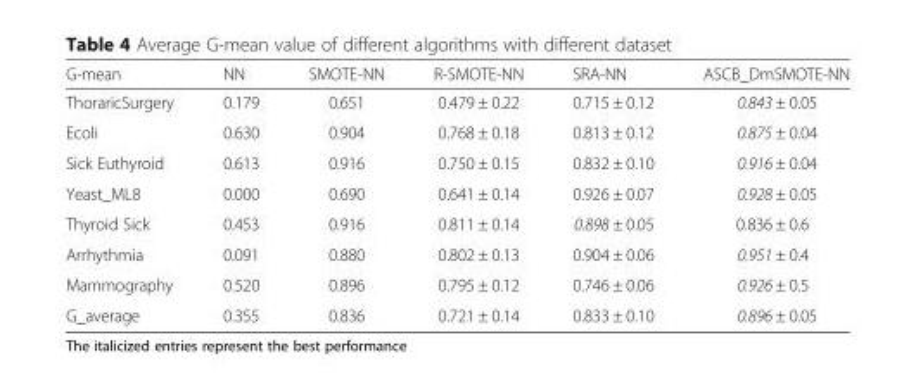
<table><thead><tr><td>G-mean</td><td>NN</td><td>SMOTE-NN</td><td>R-SMOTE-NN</td><td>SRA-NN</td><td>ASCB_DmSMOTE-NN</td></tr></thead><tbody><tr><td>ThoraricSurgery</td><td>0.179</td><td>0.651</td><td>0.479 ± 0.22</td><td>0.715 ± 0.12</td><td>0.843 ± 0.05</td></tr><tr><td>Ecoli</td><td>0.630</td><td>0.904</td><td>0.768 ± 0.18</td><td>0.813 ± 0.12</td><td>0.875 ± 0.04</td></tr><tr><td>Sick Euthyroid</td><td>0.613</td><td>0.916</td><td>0.750 ± 0.15</td><td>0.832 ± 0.10</td><td>0.916 ± 0.04</td></tr><tr><td>Yeast_ML8</td><td>0.000</td><td>0.690</td><td>0.641 ± 0.14</td><td>0.926 ± 0.07</td><td>0.928 ± 0.05</td></tr><tr><td>Thyroid Sick</td><td>0.453</td><td>0.916</td><td>0.811 ± 0.14</td><td>0.898 ± 0.05</td><td>0.836 ± 0.6</td></tr><tr><td>Arrhythmia</td><td>0.091</td><td>0.880</td><td>0.802 ± 0.13</td><td>0.904 ± 0.06</td><td>0.951 ± 0.4</td></tr><tr><td>Mammography</td><td>0.520</td><td>0.896</td><td>0.795 ± 0.12</td><td>0.746 ± 0.06</td><td>0.926 ± 0.5</td></tr><tr><td>G_average</td><td>0.355</td><td>0.836</td><td>0.721 ± 0.14</td><td>0.833 ± 0.10</td><td>0.896 ± 0.05</td></tr></tbody></table>